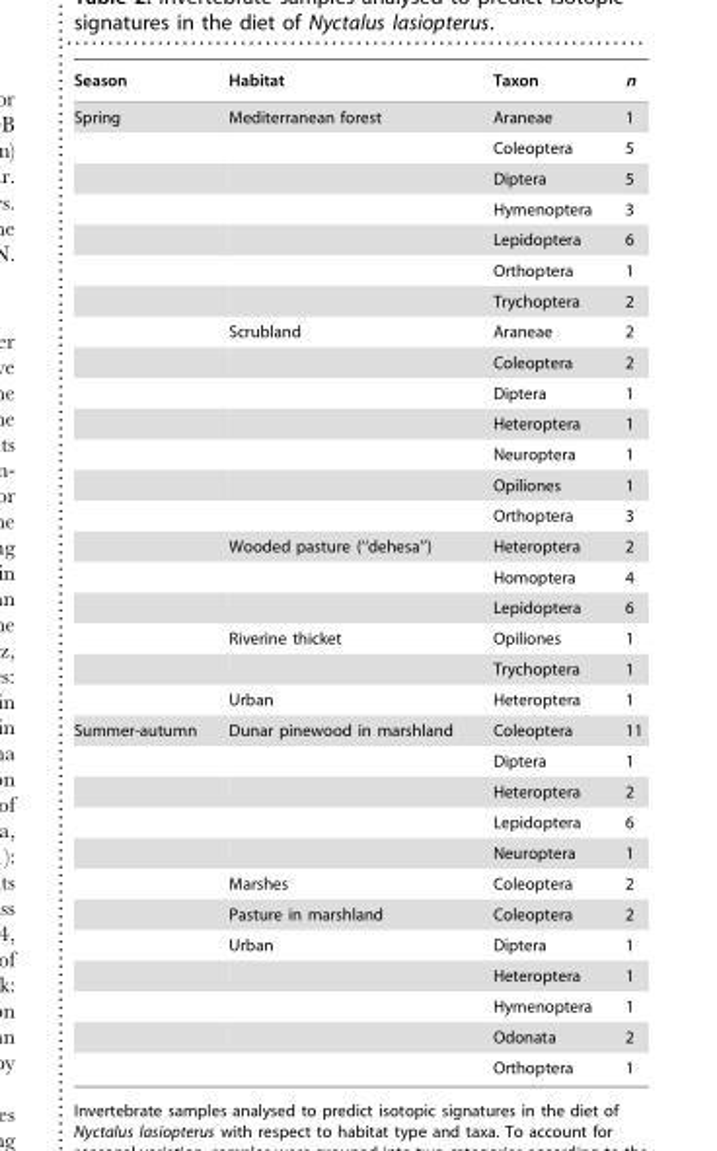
<table><thead><tr><td>Season</td><td>Habitat</td><td>Taxon</td><td>n</td></tr></thead><tbody><tr><td rowspan="20">Spring</td><td>Mediterranean forest</td><td>Araneae</td><td>1</td></tr><tr><td></td><td>Coleoptera</td><td>5</td></tr><tr><td></td><td>Diptera</td><td>5</td></tr><tr><td></td><td>Hymenoptera</td><td>3</td></tr><tr><td></td><td>Lepidoptera</td><td>6</td></tr><tr><td></td><td>Orthoptera</td><td>1</td></tr><tr><td></td><td>Trychoptera</td><td>2</td></tr><tr><td>Scrubland</td><td>Araneae</td><td>2</td></tr><tr><td></td><td>Coleoptera</td><td>2</td></tr><tr><td></td><td>Diptera</td><td>1</td></tr><tr><td></td><td>Heteroptera</td><td>1</td></tr><tr><td></td><td>Neuroptera</td><td>1</td></tr><tr><td></td><td>Opiliones</td><td>1</td></tr><tr><td></td><td>Orthoptera</td><td>3</td></tr><tr><td>Wooded pasture (‘‘dehesa’’)</td><td>Heteroptera</td><td>2</td></tr><tr><td></td><td>Homoptera</td><td>4</td></tr><tr><td></td><td>Lepidoptera</td><td>6</td></tr><tr><td>Riverine thicket</td><td>Opiliones</td><td>1</td></tr><tr><td></td><td>Trychoptera</td><td>1</td></tr><tr><td>Urban</td><td>Heteroptera</td><td>1</td></tr><tr><td rowspan="12">Summer-autumn</td><td>Dunar pinewood in marshland</td><td>Coleoptera</td><td>11</td></tr><tr><td></td><td>Diptera</td><td>1</td></tr><tr><td></td><td>Heteroptera</td><td>2</td></tr><tr><td></td><td>Lepidoptera</td><td>6</td></tr><tr><td></td><td>Neuroptera</td><td>1</td></tr><tr><td>Marshes</td><td>Coleoptera</td><td>2</td></tr><tr><td>Pasture in marshland</td><td>Coleoptera</td><td>2</td></tr><tr><td>Urban</td><td>Diptera</td><td>1</td></tr><tr><td></td><td>Heteroptera</td><td>1</td></tr><tr><td></td><td>Hymenoptera</td><td>1</td></tr><tr><td></td><td>Odonata</td><td>2</td></tr><tr><td></td><td>Orthoptera</td><td>1</td></tr></tbody></table>